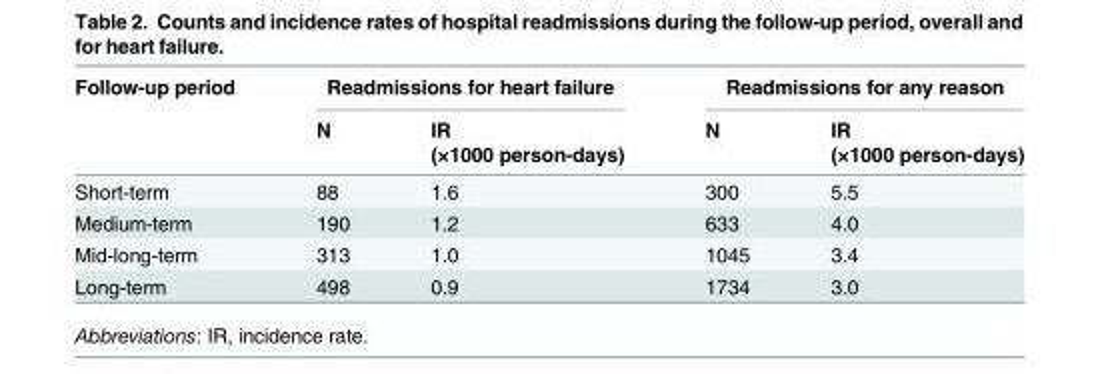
<table><thead><tr><td rowspan="3">Follow-up period</td><td colspan="2">Readmissions for heart failure</td><td colspan="2">Readmissions for any reason</td></tr><tr><td rowspan="2">N</td><td rowspan="2">IR (×1000 person-days)</td><td rowspan="2">N</td><td rowspan="2">IR (×1000 person-days)</td></tr><tr></tr></thead><tbody><tr><td>Short-term</td><td>88</td><td>1.6</td><td>300</td><td>5.5</td></tr><tr><td>Medium-term</td><td>190</td><td>1.2</td><td>633</td><td>4.0</td></tr><tr><td>Mid-long-term</td><td>313</td><td>1.0</td><td>1045</td><td>3.4</td></tr><tr><td>Long-term</td><td>498</td><td>0.9</td><td>1734</td><td>3.0</td></tr></tbody></table>